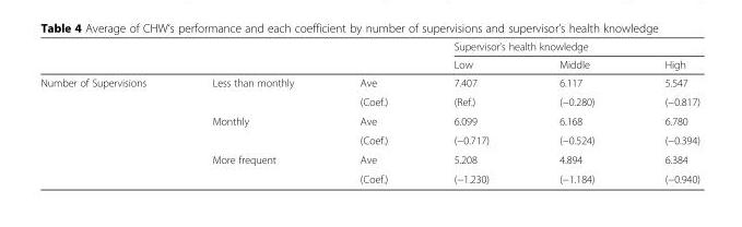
<table><thead><tr><td rowspan="2"></td><td rowspan="2"></td><td rowspan="2"></td><td colspan="3">Supervisor’s health knowledge</td></tr><tr><td>Low</td><td>Middle</td><td>High</td></tr></thead><tbody><tr><td rowspan="6">Number of Supervisions</td><td rowspan="2">Less than monthly</td><td>Ave</td><td>7.407</td><td>6.117</td><td>5.547</td></tr><tr><td>(Coef.)</td><td>(Ref.)</td><td>(−0.280)</td><td>(−0.817)</td></tr><tr><td rowspan="2">Monthly</td><td>Ave</td><td>6.099</td><td>6.168</td><td>6.780</td></tr><tr><td>(Coef.)</td><td>(−0.717)</td><td>(−0.524)</td><td>(−0.394)</td></tr><tr><td rowspan="2">More frequent</td><td>Ave</td><td>5.208</td><td>4.894</td><td>6.384</td></tr><tr><td>(Coef.)</td><td>(−1.230)</td><td>(−1.184)</td><td>(−0.940)</td></tr></tbody></table>